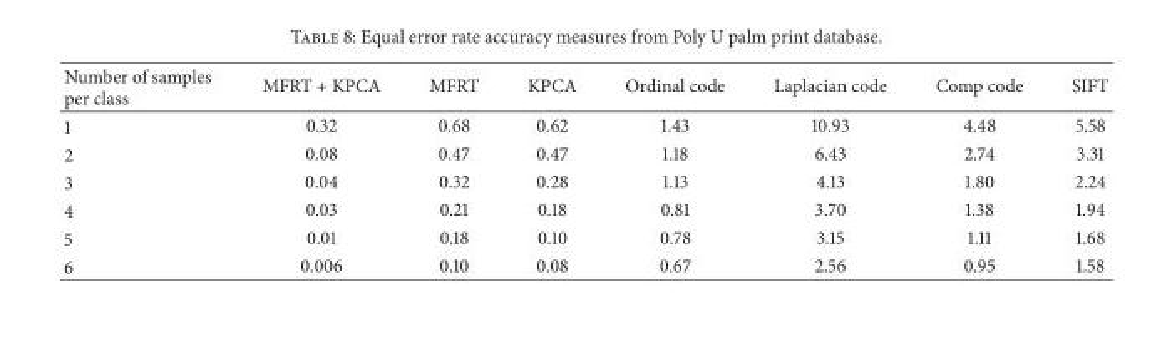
<table><thead><tr><td>Number of samples per class</td><td>MFRT + KPCA</td><td>MFRT</td><td>KPCA</td><td>Ordinal code</td><td>Laplacian code</td><td>Comp code</td><td>SIFT</td></tr></thead><tbody><tr><td>1</td><td>0.32</td><td>0.68</td><td>0.62</td><td>1.43</td><td>10.93</td><td>4.48</td><td>5.58</td></tr><tr><td>2</td><td>0.08</td><td>0.47</td><td>0.47</td><td>1.18</td><td>6.43</td><td>2.74</td><td>3.31</td></tr><tr><td>3</td><td>0.04</td><td>0.32</td><td>0.28</td><td>1.13</td><td>4.13</td><td>1.80</td><td>2.24</td></tr><tr><td>4</td><td>0.03</td><td>0.21</td><td>0.18</td><td>0.81</td><td>3.70</td><td>1.38</td><td>1.94</td></tr><tr><td>5</td><td>0.01</td><td>0.18</td><td>0.10</td><td>0.78</td><td>3.15</td><td>1.11</td><td>1.68</td></tr><tr><td>6</td><td>0.006</td><td>0.10</td><td>0.08</td><td>0.67</td><td>2.56</td><td>0.95</td><td>1.58</td></tr></tbody></table>